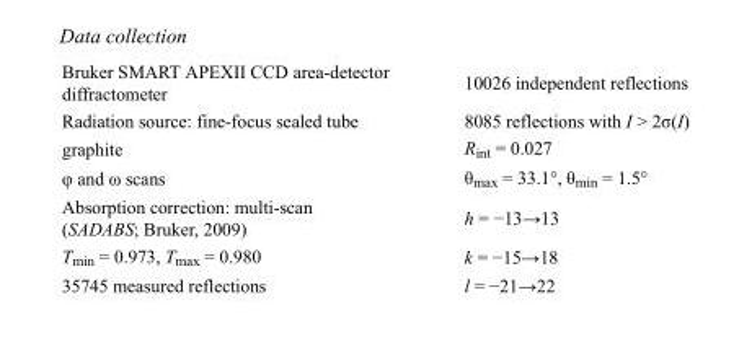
<table><tbody><tr><td>Bruker SMART APEXII CCD area-detector diffractometer</td><td>10026 independent reflections</td></tr><tr><td>Radiation source: fine-focus sealed tube</td><td>8085 reflections with I &gt; 2σ(I)</td></tr><tr><td>graphite</td><td>R<sub>int</sub> = 0.027</td></tr><tr><td>φ and ω scans</td><td>θ<sub>max</sub> = 33.1°, θ<sub>min</sub> = 1.5°</td></tr><tr><td>Absorption correction: multi-scan (SADABS; Bruker, 2009)</td><td>h = −13→13</td></tr><tr><td>T<sub>min</sub> = 0.973, T<sub>max</sub> = 0.980</td><td>k = −15→18</td></tr><tr><td>35745 measured reflections</td><td>l = −21→22</td></tr></tbody></table>